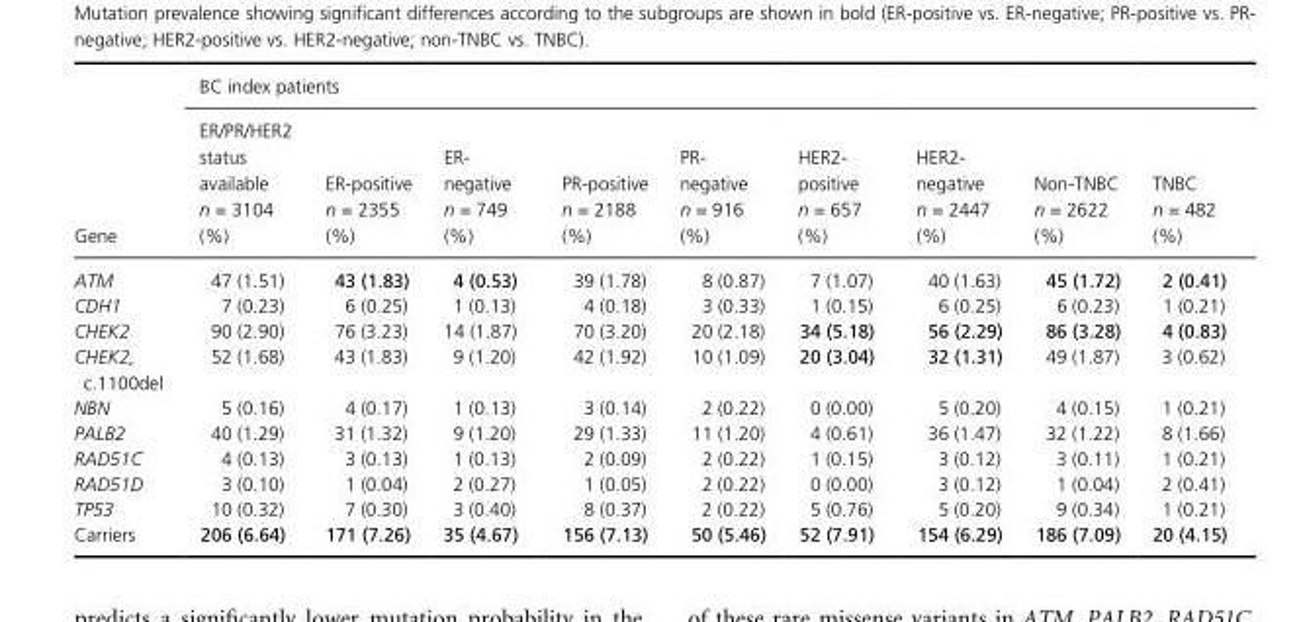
<table><thead><tr><td rowspan="2">Gene</td><td colspan="9">BC index patients</td></tr><tr><td>ER/PR/HER2 status available n = 3104 (%)</td><td>ER- positive n = 2355 (%)</td><td>ER- negative n = 749 (%)</td><td>PR- positive n = 2188 (%)</td><td>PR- negative n = 916 (%)</td><td>HER2- positive n = 657 (%)</td><td>HER2- negative n = 2447 (%)</td><td>Non- TNBC n = 2622 (%)</td><td>TNBC n = 482 (%)</td></tr></thead><tbody><tr><td>ATM</td><td>47 (1.51)</td><td>43 (1.83)</td><td>4 (0.53)</td><td>39 (1.78)</td><td>8 (0.87)</td><td>7 (1.07)</td><td>40 (1.63)</td><td>45 (1.72)</td><td>2 (0.41)</td></tr><tr><td>CDH1</td><td>7 (0.23)</td><td>6 (0.25)</td><td>1 (0.13)</td><td>4 (0.18)</td><td>3 (0.33)</td><td>1 (0.15)</td><td>6 (0.25)</td><td>6 (0.23)</td><td>1 (0.21)</td></tr><tr><td>CHEK2</td><td>90 (2.90)</td><td>76 (3.23)</td><td>14 (1.87)</td><td>70 (3.20)</td><td>20 (2.18)</td><td>34 (5.18)</td><td>56 (2.29)</td><td>86 (3.28)</td><td>4 (0.83)</td></tr><tr><td>CHEK2, c.1100del</td><td>52 (1.68)</td><td>43 (1.83)</td><td>9 (1.20)</td><td>42 (1.92)</td><td>10 (1.09)</td><td>20 (3.04)</td><td>32 (1.31)</td><td>49 (1.87)</td><td>3 (0.62)</td></tr><tr><td>NBN</td><td>5 (0.16)</td><td>4 (0.17)</td><td>1 (0.13)</td><td>3 (0.14)</td><td>2 (0.22)</td><td>0 (0.00)</td><td>5 (0.20)</td><td>4 (0.15)</td><td>1 (0.21)</td></tr><tr><td>PALB2</td><td>40 (1.29)</td><td>31 (1.32)</td><td>9 (1.20)</td><td>29 (1.33)</td><td>11 (1.20)</td><td>4 (0.61)</td><td>36 (1.47)</td><td>32 (1.22)</td><td>8 (1.66)</td></tr><tr><td>RAD51C</td><td>4 (0.13)</td><td>3 (0.13)</td><td>1 (0.13)</td><td>2 (0.09)</td><td>2 (0.22)</td><td>1 (0.15)</td><td>3 (0.12)</td><td>3 (0.11)</td><td>1 (0.21)</td></tr><tr><td>RAD51D</td><td>3 (0.10)</td><td>1 (0.04)</td><td>2 (0.27)</td><td>1 (0.05)</td><td>2 (0.22)</td><td>0 (0.00)</td><td>3 (0.12)</td><td>1 (0.04)</td><td>2 (0.41)</td></tr><tr><td>TP53</td><td>10 (0.32)</td><td>7 (0.30)</td><td>3 (0.40)</td><td>8 (0.37)</td><td>2 (0.22)</td><td>5 (0.76)</td><td>5 (0.20)</td><td>9 (0.34)</td><td>1 (0.21)</td></tr><tr><td>Carriers</td><td>206 (6.64)</td><td>171 (7.26)</td><td>35 (4.67)</td><td>156 (7.13)</td><td>50 (5.46)</td><td>52 (7.91)</td><td>154 (6.29)</td><td>186 (7.09)</td><td>20 (4.15)</td></tr></tbody></table>